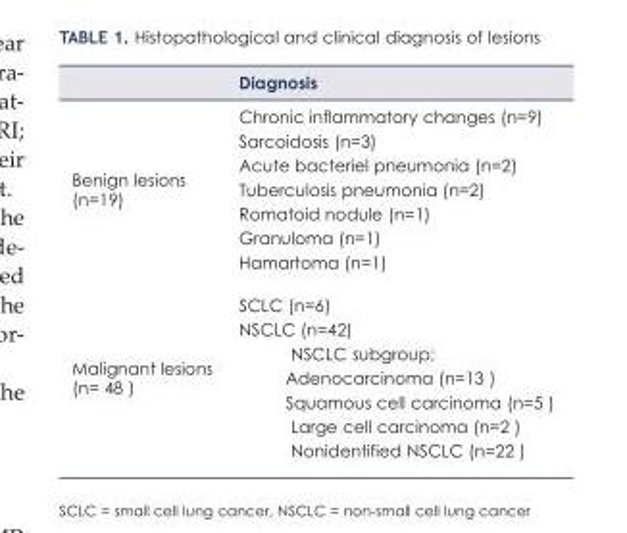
<table><thead><tr><td></td><td>Diagnosis</td></tr></thead><tbody><tr><td rowspan="7">Benign lesions (n=19)</td><td>Chronic inflammatory changes (n=9)</td></tr><tr><td>Sarcoidosis (n=3)</td></tr><tr><td>Acute bacteriel pneumonia (n=2)</td></tr><tr><td>Tuberculosis pneumonia (n=2)</td></tr><tr><td>Romatoid nodule (n=1)</td></tr><tr><td>Granuloma (n=1)</td></tr><tr><td>Hamartoma (n=1)</td></tr><tr><td rowspan="7">Malignant lesions (n= 48 )</td><td>SCLC (n=6)</td></tr><tr><td>NSCLC (n=42)</td></tr><tr><td>NSCLC subgroup;</td></tr><tr><td>Adenocarcinoma (n=13 )</td></tr><tr><td>Squamous cell carcinoma (n=5 )</td></tr><tr><td>Large cell carcinoma (n=2 )</td></tr><tr><td>Nonidentified NSCLC (n=22 )</td></tr></tbody></table>